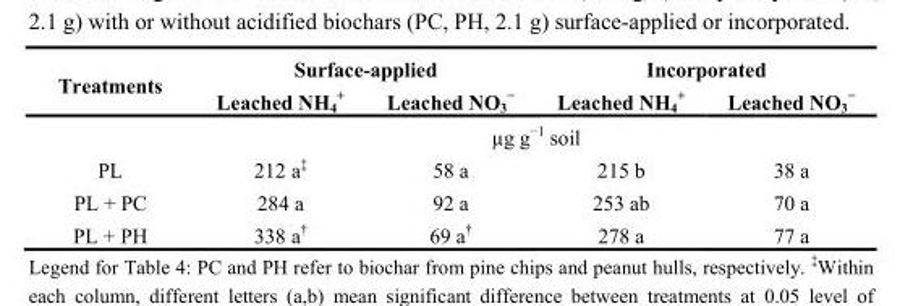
<table><thead><tr><td rowspan="2">Treatments</td><td colspan="2">Surface-applied</td><td colspan="2">Incorporated</td></tr><tr><td>Leached NH<sub>4</sub> <sup>+</sup></td><td>Leached NO<sub>3</sub> <sup>−</sup></td><td>Leached NH<sub>4</sub> <sup>+</sup></td><td>Leached NO<sub>3</sub> <sup>−</sup></td></tr></thead><tbody><tr><td></td><td colspan="4">µg g<sup>−1</sup> soil</td></tr><tr><td>PL</td><td>212 a‡</td><td>58 a</td><td>215 b</td><td>38 a</td></tr><tr><td>PL + PC</td><td>284 a</td><td>92 a</td><td>253 ab</td><td>70 a</td></tr><tr><td>PL + PH</td><td>338 a†</td><td>69 a†</td><td>278 a</td><td>77 a</td></tr></tbody></table>